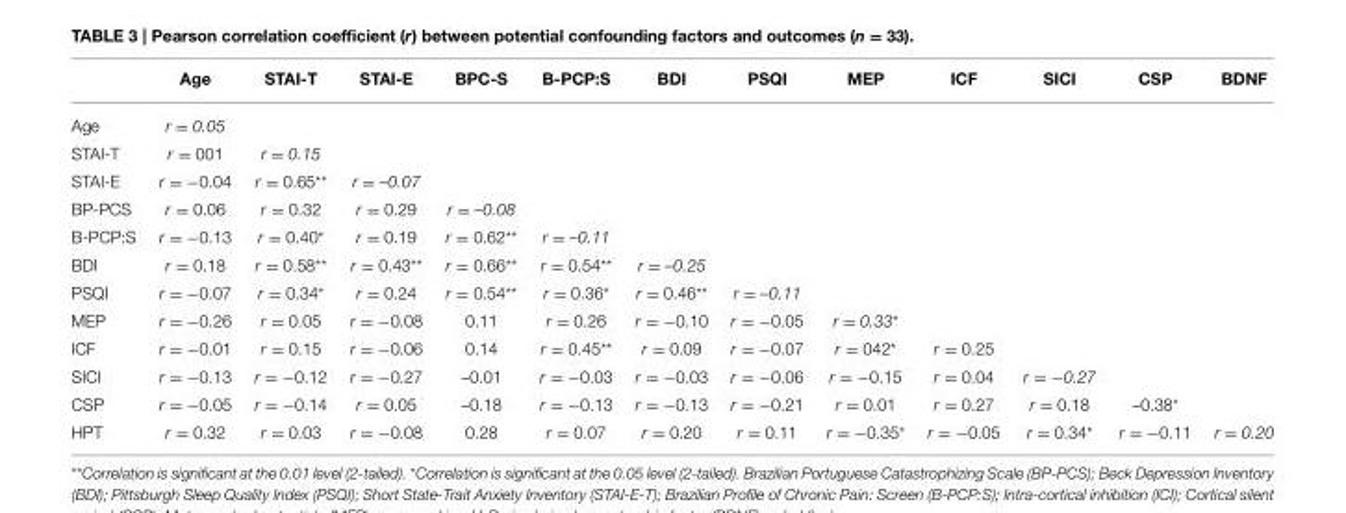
<table><thead><tr><td></td><td>Age</td><td>STAI-T</td><td>STAI-E</td><td>BPC-S</td><td>B-PCP:S</td><td>BDI</td><td>PSQI</td><td>MEP</td><td>ICF</td><td>SICI</td><td>CSP</td><td>BDNF</td></tr></thead><tbody><tr><td>Age</td><td>r = 0.05</td><td></td><td></td><td></td><td></td><td></td><td></td><td></td><td></td><td></td><td></td><td></td></tr><tr><td>STAI-T</td><td>r = 001</td><td>r = 0.15</td><td></td><td></td><td></td><td></td><td></td><td></td><td></td><td></td><td></td><td></td></tr><tr><td>STAI-E</td><td>r = −0.04</td><td>r = 0.65**</td><td>r = –0.07</td><td></td><td></td><td></td><td></td><td></td><td></td><td></td><td></td><td></td></tr><tr><td>BP-PCS</td><td>r = 0.06</td><td>r = 0.32</td><td>r = 0.29</td><td>r = –0.08</td><td></td><td></td><td></td><td></td><td></td><td></td><td></td><td></td></tr><tr><td>B-PCP:S</td><td>r = −0.13</td><td>r = 0.40*</td><td>r = 0.19</td><td>r = 0.62**</td><td>r = –0.11</td><td></td><td></td><td></td><td></td><td></td><td></td><td></td></tr><tr><td>BDI</td><td>r = 0.18</td><td>r = 0.58**</td><td>r = 0.43**</td><td>r = 0.66**</td><td>r = 0.54**</td><td>r = –0.25</td><td></td><td></td><td></td><td></td><td></td><td></td></tr><tr><td>PSQI</td><td>r = −0.07</td><td>r = 0.34*</td><td>r = 0.24</td><td>r = 0.54**</td><td>r = 0.36*</td><td>r = 0.46**</td><td>r = –0.11</td><td></td><td></td><td></td><td></td><td></td></tr><tr><td>MEP</td><td>r = −0.26</td><td>r = 0.05</td><td>r = −0.08</td><td>0.11</td><td>r = 0.26</td><td>r = −0.10</td><td>r = −0.05</td><td>r = 0.33*</td><td></td><td></td><td></td><td></td></tr><tr><td>ICF</td><td>r = −0.01</td><td>r = 0.15</td><td>r = −0.06</td><td>0.14</td><td>r = 0.45**</td><td>r = 0.09</td><td>r = −0.07</td><td>r = 042*</td><td>r = 0.25</td><td></td><td></td><td></td></tr><tr><td>SICI</td><td>r = −0.13</td><td>r = −0.12</td><td>r = −0.27</td><td>–0.01</td><td>r = −0.03</td><td>r = −0.03</td><td>r = −0.06</td><td>r = −0.15</td><td>r = 0.04</td><td>r = −0.27</td><td></td><td></td></tr><tr><td>CSP</td><td>r = −0.05</td><td>r = −0.14</td><td>r = 0.05</td><td>–0.18</td><td>r = −0.13</td><td>r = −0.13</td><td>r = −0.21</td><td>r = 0.01</td><td>r = 0.27</td><td>r = 0.18</td><td>–0.38*</td><td></td></tr><tr><td>HPT</td><td>r = 0.32</td><td>r = 0.03</td><td>r = −0.08</td><td>0.28</td><td>r = 0.07</td><td>r = 0.20</td><td>r = 0.11</td><td>r = −0.35*</td><td>r = −0.05</td><td>r = 0.34*</td><td>r = −0.11</td><td>r = 0.20</td></tr></tbody></table>